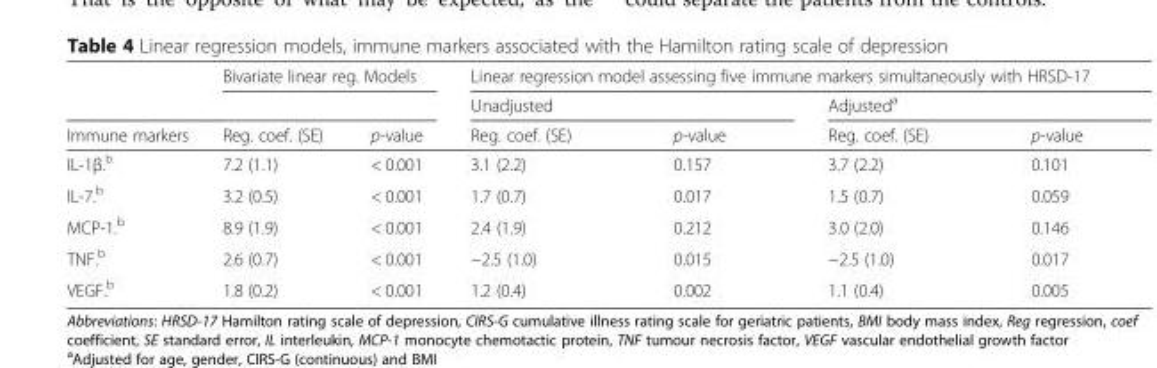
<table><thead><tr><td rowspan="3">Immune markers</td><td colspan="2">Bivariate linear reg. Models</td><td colspan="4">Linear regression model assessing five immune markers simultaneously with HRSD-17</td></tr><tr><td rowspan="2">Reg. coef. (SE)</td><td rowspan="2">p-value</td><td colspan="2">Unadjusted</td><td colspan="2">Adjusted<sup>a</sup></td></tr><tr><td>Reg. coef. (SE)</td><td>p-value</td><td>Reg. coef. (SE)</td><td>p-value</td></tr></thead><tbody><tr><td>IL-1β.<sup>b</sup></td><td>7.2 (1.1)</td><td>&lt; 0.001</td><td>3.1 (2.2)</td><td>0.157</td><td>3.7 (2.2)</td><td>0.101</td></tr><tr><td>IL-7.<sup>b</sup></td><td>3.2 (0.5)</td><td>&lt; 0.001</td><td>1.7 (0.7)</td><td>0.017</td><td>1.5 (0.7)</td><td>0.059</td></tr><tr><td>MCP-1.<sup>b</sup></td><td>8.9 (1.9)</td><td>&lt; 0.001</td><td>2.4 (1.9)</td><td>0.212</td><td>3.0 (2.0)</td><td>0.146</td></tr><tr><td>TNF.<sup>b</sup></td><td>2.6 (0.7)</td><td>&lt; 0.001</td><td>−2.5 (1.0)</td><td>0.015</td><td>−2.5 (1.0)</td><td>0.017</td></tr><tr><td>VEGF.<sup>b</sup></td><td>1.8 (0.2)</td><td>&lt; 0.001</td><td>1.2 (0.4)</td><td>0.002</td><td>1.1 (0.4)</td><td>0.005</td></tr></tbody></table>